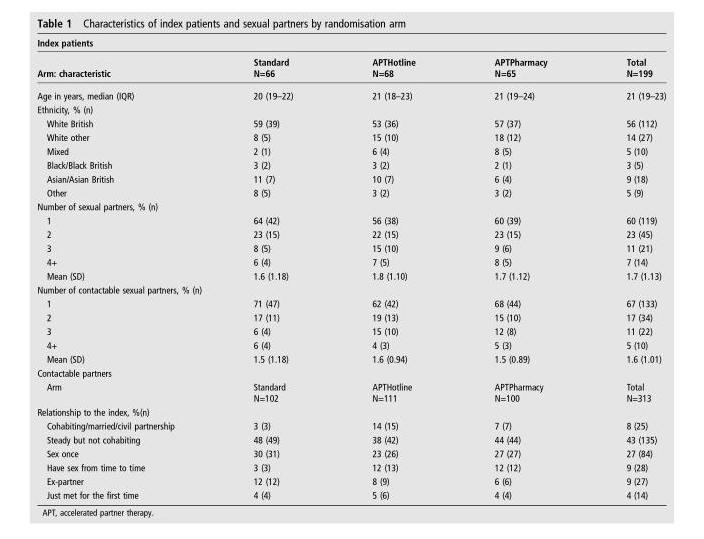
<table><thead><tr><td colspan="5">Index patients</td></tr><tr><td>Arm: characteristic</td><td>Standard N=66</td><td>APTHotline N=68</td><td>APTPharmacy N=65</td><td>Total N=199</td></tr></thead><tbody><tr><td>Age in years, median (IQR)</td><td>20 (19–22)</td><td>21 (18–23)</td><td>21 (19–24)</td><td>21 (19–23)</td></tr><tr><td colspan="5">Ethnicity, % (n)</td></tr><tr><td>White British</td><td>59 (39)</td><td>53 (36)</td><td>57 (37)</td><td>56 (112)</td></tr><tr><td>White other</td><td>8 (5)</td><td>15 (10)</td><td>18 (12)</td><td>14 (27)</td></tr><tr><td>Mixed</td><td>2 (1)</td><td>6 (4)</td><td>8 (5)</td><td>5 (10)</td></tr><tr><td>Black/Black British</td><td>3 (2)</td><td>3 (2)</td><td>2 (1)</td><td>3 (5)</td></tr><tr><td>Asian/Asian British</td><td>11 (7)</td><td>10 (7)</td><td>6 (4)</td><td>9 (18)</td></tr><tr><td>Other</td><td>8 (5)</td><td>3 (2)</td><td>3 (2)</td><td>5 (9)</td></tr><tr><td colspan="5">Number of sexual partners, % (n)</td></tr><tr><td>1</td><td>64 (42)</td><td>56 (38)</td><td>60 (39)</td><td>60 (119)</td></tr><tr><td>2</td><td>23 (15)</td><td>22 (15)</td><td>23 (15)</td><td>23 (45)</td></tr><tr><td>3</td><td>8 (5)</td><td>15 (10)</td><td>9 (6)</td><td>11 (21)</td></tr><tr><td>4+</td><td>6 (4)</td><td>7 (5)</td><td>8 (5)</td><td>7 (14)</td></tr><tr><td>Mean (SD)</td><td>1.6 (1.18)</td><td>1.8 (1.10)</td><td>1.7 (1.12)</td><td>1.7 (1.13)</td></tr><tr><td colspan="5">Number of contactable sexual partners, % (n)</td></tr><tr><td>1</td><td>71 (47)</td><td>62 (42)</td><td>68 (44)</td><td>67 (133)</td></tr><tr><td>2</td><td>17 (11)</td><td>19 (13)</td><td>15 (10)</td><td>17 (34)</td></tr><tr><td>3</td><td>6 (4)</td><td>15 (10)</td><td>12 (8)</td><td>11 (22)</td></tr><tr><td>4+</td><td>6 (4)</td><td>4 (3)</td><td>5 (3)</td><td>5 (10)</td></tr><tr><td>Mean (SD)</td><td>1.5 (1.18)</td><td>1.6 (0.94)</td><td>1.5 (0.89)</td><td>1.6 (1.01)</td></tr><tr><td colspan="5">Contactable partners</td></tr><tr><td>Arm</td><td>Standard N=102</td><td>APTHotline N=111</td><td>APTPharmacy N=100</td><td>Total N=313</td></tr><tr><td colspan="5">Relationship to the index, %(n)</td></tr><tr><td>Cohabiting/married/civil partnership</td><td>3 (3)</td><td>14 (15)</td><td>7 (7)</td><td>8 (25)</td></tr><tr><td>Steady but not cohabiting</td><td>48 (49)</td><td>38 (42)</td><td>44 (44)</td><td>43 (135)</td></tr><tr><td>Sex once</td><td>30 (31)</td><td>23 (26)</td><td>27 (27)</td><td>27 (84)</td></tr><tr><td>Have sex from time to time</td><td>3 (3)</td><td>12 (13)</td><td>12 (12)</td><td>9 (28)</td></tr><tr><td>Ex-partner</td><td>12 (12)</td><td>8 (9)</td><td>6 (6)</td><td>9 (27)</td></tr><tr><td>Just met for the first time</td><td>4 (4)</td><td>5 (6)</td><td>4 (4)</td><td>4 (14)</td></tr></tbody></table>